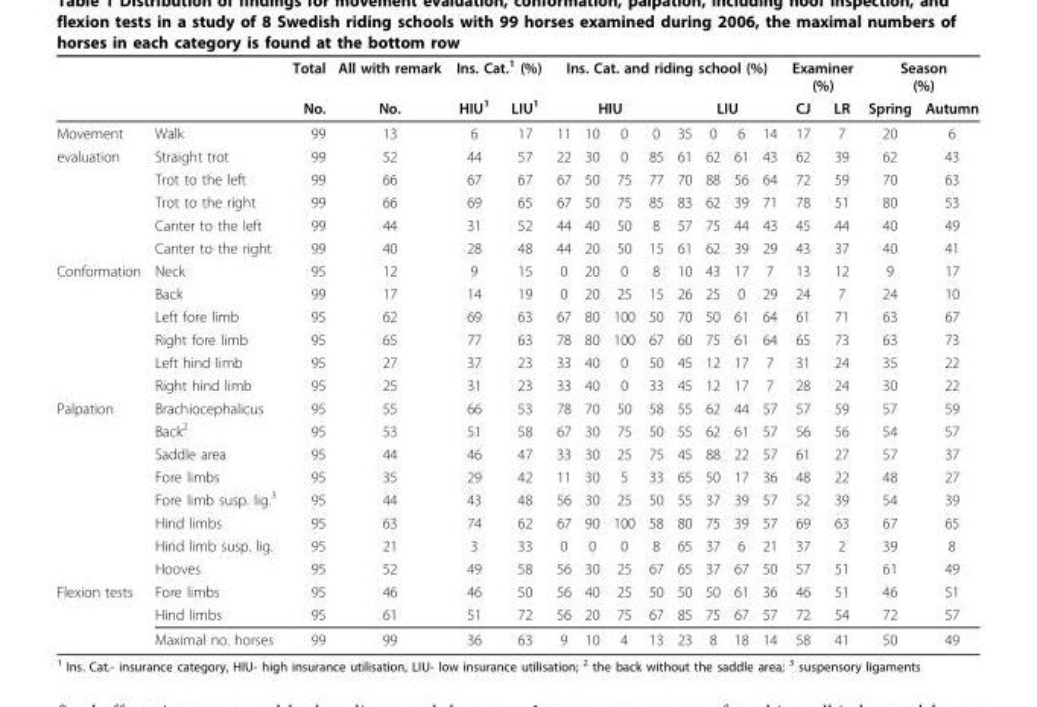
<table><thead><tr><td rowspan="3">Movement</td><td rowspan="3">Walk</td><td rowspan="3">Total No. 99</td><td rowspan="3">All with remark No. 13</td><td colspan="2">Ins. Cat.<sup>1</sup> (%)</td><td colspan="8">Ins. Cat. and riding school (%)</td><td colspan="2">Examiner (%)</td><td colspan="2">Season (%)</td></tr><tr><td rowspan="2">HIU<sup>1</sup> 6</td><td rowspan="2">LIU<sup>1</sup> 17</td><td colspan="4">HIU</td><td colspan="4">LIU</td><td rowspan="2">CJ 17</td><td rowspan="2">LR 7</td><td rowspan="2">Spring 20</td><td rowspan="2">Autumn 6</td></tr><tr><td>11</td><td>10</td><td>0</td><td>0</td><td>35</td><td>0</td><td>6</td><td>14</td></tr></thead><tbody><tr><td rowspan="5">evaluation</td><td>Straight trot</td><td>99</td><td>52</td><td>44</td><td>57</td><td>22</td><td>30</td><td>0</td><td>85</td><td>61</td><td>62</td><td>61</td><td>43</td><td>62</td><td>39</td><td>62</td><td>43</td></tr><tr><td>Trot to the left</td><td>99</td><td>66</td><td>67</td><td>67</td><td>67</td><td>50</td><td>75</td><td>77</td><td>70</td><td>88</td><td>56</td><td>64</td><td>72</td><td>59</td><td>70</td><td>63</td></tr><tr><td>Trot to the right</td><td>99</td><td>66</td><td>69</td><td>65</td><td>67</td><td>50</td><td>75</td><td>85</td><td>83</td><td>62</td><td>39</td><td>71</td><td>78</td><td>51</td><td>80</td><td>53</td></tr><tr><td>Canter to the left</td><td>99</td><td>44</td><td>31</td><td>52</td><td>44</td><td>40</td><td>50</td><td>8</td><td>57</td><td>75</td><td>44</td><td>43</td><td>45</td><td>44</td><td>40</td><td>49</td></tr><tr><td>Canter to the right</td><td>99</td><td>40</td><td>28</td><td>48</td><td>44</td><td>20</td><td>50</td><td>15</td><td>61</td><td>62</td><td>39</td><td>29</td><td>43</td><td>37</td><td>40</td><td>41</td></tr><tr><td rowspan="6">Conformation</td><td>Neck</td><td>95</td><td>12</td><td>9</td><td>15</td><td>0</td><td>20</td><td>0</td><td>8</td><td>10</td><td>43</td><td>17</td><td>7</td><td>13</td><td>12</td><td>9</td><td>17</td></tr><tr><td>Back</td><td>99</td><td>17</td><td>14</td><td>19</td><td>0</td><td>20</td><td>25</td><td>15</td><td>26</td><td>25</td><td>0</td><td>29</td><td>24</td><td>7</td><td>24</td><td>10</td></tr><tr><td>Left fore limb</td><td>95</td><td>62</td><td>69</td><td>63</td><td>67</td><td>80</td><td>100</td><td>50</td><td>70</td><td>50</td><td>61</td><td>64</td><td>61</td><td>71</td><td>63</td><td>67</td></tr><tr><td>Right fore limb</td><td>95</td><td>65</td><td>77</td><td>63</td><td>78</td><td>80</td><td>100</td><td>67</td><td>60</td><td>75</td><td>61</td><td>64</td><td>65</td><td>73</td><td>63</td><td>73</td></tr><tr><td>Left hind limb</td><td>95</td><td>27</td><td>37</td><td>23</td><td>33</td><td>40</td><td>0</td><td>50</td><td>45</td><td>12</td><td>17</td><td>7</td><td>31</td><td>24</td><td>35</td><td>22</td></tr><tr><td>Right hind limb</td><td>95</td><td>25</td><td>31</td><td>23</td><td>33</td><td>40</td><td>0</td><td>33</td><td>45</td><td>12</td><td>17</td><td>7</td><td>28</td><td>24</td><td>30</td><td>22</td></tr><tr><td rowspan="8">Palpation</td><td>Brachiocephalicus</td><td>95</td><td>55</td><td>66</td><td>53</td><td>78</td><td>70</td><td>50</td><td>58</td><td>55</td><td>62</td><td>44</td><td>57</td><td>57</td><td>59</td><td>57</td><td>59</td></tr><tr><td>Back<sup>2</sup></td><td>95</td><td>53</td><td>51</td><td>58</td><td>67</td><td>30</td><td>75</td><td>50</td><td>55</td><td>62</td><td>61</td><td>57</td><td>56</td><td>56</td><td>54</td><td>57</td></tr><tr><td>Saddle area</td><td>95</td><td>44</td><td>46</td><td>47</td><td>33</td><td>30</td><td>25</td><td>75</td><td>45</td><td>88</td><td>22</td><td>57</td><td>61</td><td>27</td><td>57</td><td>37</td></tr><tr><td>Fore limbs</td><td>95</td><td>35</td><td>29</td><td>42</td><td>11</td><td>30</td><td>5</td><td>33</td><td>65</td><td>50</td><td>17</td><td>36</td><td>48</td><td>22</td><td>48</td><td>27</td></tr><tr><td>Fore limb susp. lig.<sup>3</sup></td><td>95</td><td>44</td><td>43</td><td>48</td><td>56</td><td>30</td><td>25</td><td>50</td><td>55</td><td>37</td><td>39</td><td>57</td><td>52</td><td>39</td><td>54</td><td>39</td></tr><tr><td>Hind limbs</td><td>95</td><td>63</td><td>74</td><td>62</td><td>67</td><td>90</td><td>100</td><td>58</td><td>80</td><td>75</td><td>39</td><td>57</td><td>69</td><td>63</td><td>67</td><td>65</td></tr><tr><td>Hind limb susp. lig.</td><td>95</td><td>21</td><td>3</td><td>33</td><td>0</td><td>0</td><td>0</td><td>8</td><td>65</td><td>37</td><td>6</td><td>21</td><td>37</td><td>2</td><td>39</td><td>8</td></tr><tr><td>Hooves</td><td>95</td><td>52</td><td>49</td><td>58</td><td>56</td><td>30</td><td>25</td><td>67</td><td>65</td><td>37</td><td>67</td><td>50</td><td>57</td><td>51</td><td>61</td><td>49</td></tr><tr><td rowspan="3">Flexion tests</td><td>Fore limbs</td><td>95</td><td>46</td><td>46</td><td>50</td><td>56</td><td>40</td><td>25</td><td>50</td><td>50</td><td>50</td><td>61</td><td>36</td><td>46</td><td>51</td><td>46</td><td>51</td></tr><tr><td>Hind limbs</td><td>95</td><td>61</td><td>51</td><td>72</td><td>56</td><td>20</td><td>75</td><td>67</td><td>85</td><td>75</td><td>67</td><td>57</td><td>72</td><td>54</td><td>72</td><td>57</td></tr><tr><td>Maximal no. horses</td><td>99</td><td>99</td><td>36</td><td>63</td><td>9</td><td>10</td><td>4</td><td>13</td><td>23</td><td>8</td><td>18</td><td>14</td><td>58</td><td>41</td><td>50</td><td>49</td></tr></tbody></table>